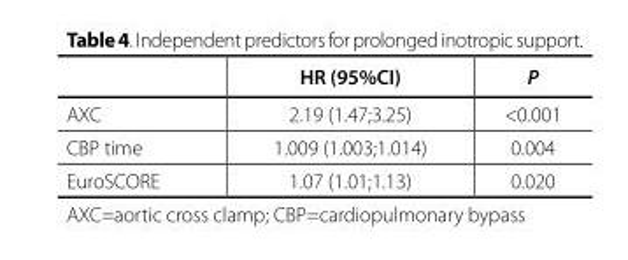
<table><thead><tr><td></td><td>HR (95%CI)</td><td>P</td></tr></thead><tbody><tr><td>AXC</td><td>2.19 (1.47;3.25)</td><td>&lt;0.001</td></tr><tr><td>CBP time</td><td>1.009 (1.003;1.014)</td><td>0.004</td></tr><tr><td>EuroSCORE</td><td>1.07 (1.01;1.13)</td><td>0.020</td></tr></tbody></table>